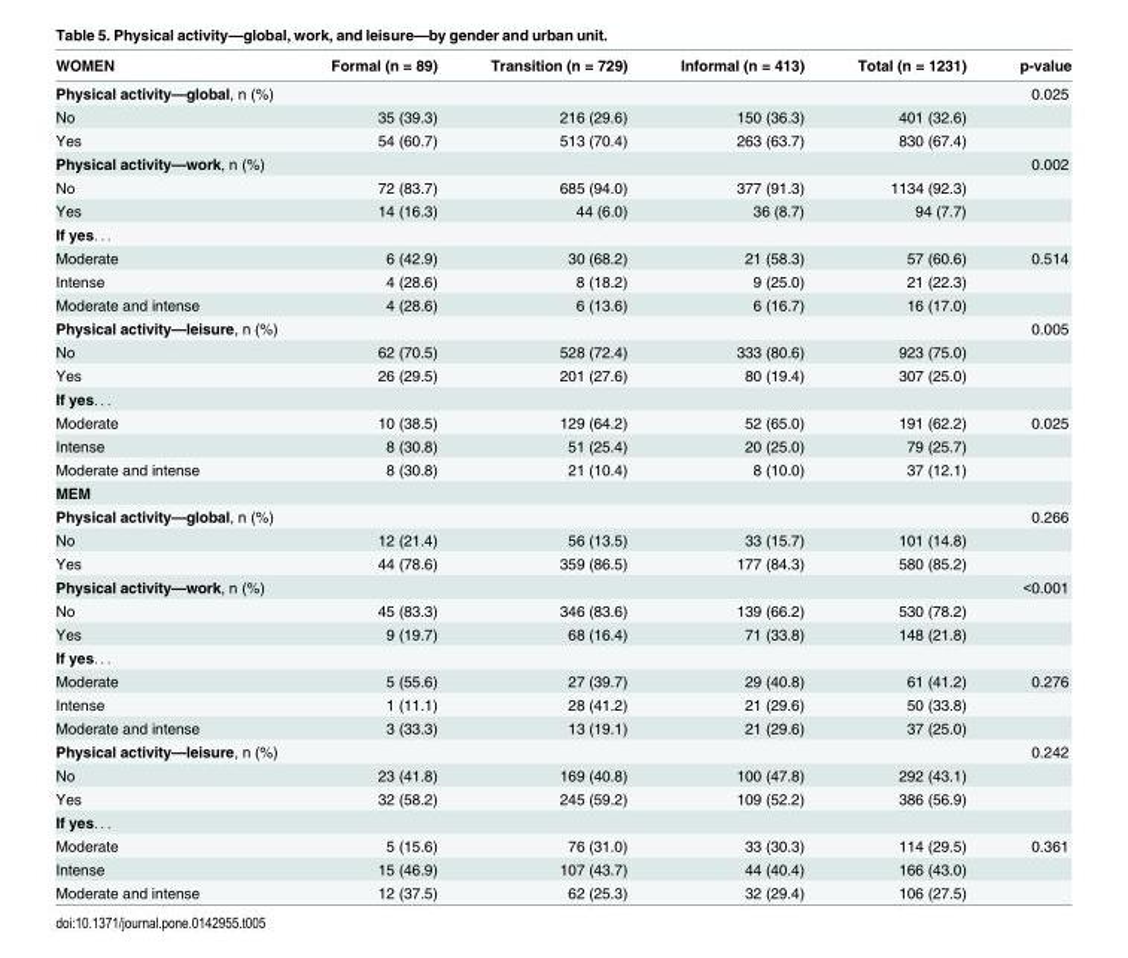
<table><thead><tr><td>WOMEN</td><td>Formal (n = 89)</td><td>Transition (n = 729)</td><td>Informal (n = 413)</td><td>Total (n = 1231)</td><td>p-value</td></tr></thead><tbody><tr><td>Physical activity—global, n (%)</td><td></td><td></td><td></td><td></td><td>0.025</td></tr><tr><td>No</td><td>35 (39.3)</td><td>216 (29.6)</td><td>150 (36.3)</td><td>401 (32.6)</td><td></td></tr><tr><td>Yes</td><td>54 (60.7)</td><td>513 (70.4)</td><td>263 (63.7)</td><td>830 (67.4)</td><td></td></tr><tr><td>Physical activity—work, n (%)</td><td></td><td></td><td></td><td></td><td>0.002</td></tr><tr><td>No</td><td>72 (83.7)</td><td>685 (94.0)</td><td>377 (91.3)</td><td>1134 (92.3)</td><td></td></tr><tr><td>Yes</td><td>14 (16.3)</td><td>44 (6.0)</td><td>36 (8.7)</td><td>94 (7.7)</td><td></td></tr><tr><td colspan="6">If yes. . .</td></tr><tr><td>Moderate</td><td>6 (42.9)</td><td>30 (68.2)</td><td>21 (58.3)</td><td>57 (60.6)</td><td>0.514</td></tr><tr><td>Intense</td><td>4 (28.6)</td><td>8 (18.2)</td><td>9 (25.0)</td><td>21 (22.3)</td><td></td></tr><tr><td>Moderate and intense</td><td>4 (28.6)</td><td>6 (13.6)</td><td>6 (16.7)</td><td>16 (17.0)</td><td></td></tr><tr><td>Physical activity—leisure, n (%)</td><td></td><td></td><td></td><td></td><td>0.005</td></tr><tr><td>No</td><td>62 (70.5)</td><td>528 (72.4)</td><td>333 (80.6)</td><td>923 (75.0)</td><td></td></tr><tr><td>Yes</td><td>26 (29.5)</td><td>201 (27.6)</td><td>80 (19.4)</td><td>307 (25.0)</td><td></td></tr><tr><td colspan="6">If yes. . .</td></tr><tr><td>Moderate</td><td>10 (38.5)</td><td>129 (64.2)</td><td>52 (65.0)</td><td>191 (62.2)</td><td>0.025</td></tr><tr><td>Intense</td><td>8 (30.8)</td><td>51 (25.4)</td><td>20 (25.0)</td><td>79 (25.7)</td><td></td></tr><tr><td>Moderate and intense</td><td>8 (30.8)</td><td>21 (10.4)</td><td>8 (10.0)</td><td>37 (12.1)</td><td></td></tr><tr><td colspan="6">MEM</td></tr><tr><td>Physical activity—global, n (%)</td><td></td><td></td><td></td><td></td><td>0.266</td></tr><tr><td>No</td><td>12 (21.4)</td><td>56 (13.5)</td><td>33 (15.7)</td><td>101 (14.8)</td><td></td></tr><tr><td>Yes</td><td>44 (78.6)</td><td>359 (86.5)</td><td>177 (84.3)</td><td>580 (85.2)</td><td></td></tr><tr><td>Physical activity—work, n (%)</td><td></td><td></td><td></td><td></td><td>&lt;0.001</td></tr><tr><td>No</td><td>45 (83.3)</td><td>346 (83.6)</td><td>139 (66.2)</td><td>530 (78.2)</td><td></td></tr><tr><td>Yes</td><td>9 (19.7)</td><td>68 (16.4)</td><td>71 (33.8)</td><td>148 (21.8)</td><td></td></tr><tr><td colspan="6">If yes. . .</td></tr><tr><td>Moderate</td><td>5 (55.6)</td><td>27 (39.7)</td><td>29 (40.8)</td><td>61 (41.2)</td><td>0.276</td></tr><tr><td>Intense</td><td>1 (11.1)</td><td>28 (41.2)</td><td>21 (29.6)</td><td>50 (33.8)</td><td></td></tr><tr><td>Moderate and intense</td><td>3 (33.3)</td><td>13 (19.1)</td><td>21 (29.6)</td><td>37 (25.0)</td><td></td></tr><tr><td>Physical activity—leisure, n (%)</td><td></td><td></td><td></td><td></td><td>0.242</td></tr><tr><td>No</td><td>23 (41.8)</td><td>169 (40.8)</td><td>100 (47.8)</td><td>292 (43.1)</td><td></td></tr><tr><td>Yes</td><td>32 (58.2)</td><td>245 (59.2)</td><td>109 (52.2)</td><td>386 (56.9)</td><td></td></tr><tr><td colspan="6">If yes. . .</td></tr><tr><td>Moderate</td><td>5 (15.6)</td><td>76 (31.0)</td><td>33 (30.3)</td><td>114 (29.5)</td><td>0.361</td></tr><tr><td>Intense</td><td>15 (46.9)</td><td>107 (43.7)</td><td>44 (40.4)</td><td>166 (43.0)</td><td></td></tr><tr><td>Moderate and intense</td><td>12 (37.5)</td><td>62 (25.3)</td><td>32 (29.4)</td><td>106 (27.5)</td><td></td></tr></tbody></table>